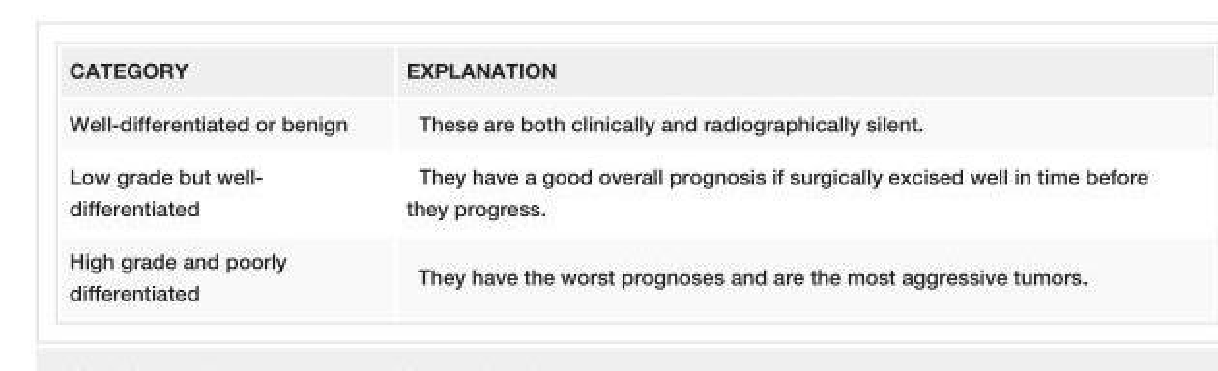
<table><tbody><tr><td>CATEGORY</td><td>EXPLANATION</td></tr><tr><td>Well-differentiated or benign</td><td>These are both clinically and radiographically silent.</td></tr><tr><td>Low grade but well- differentiated</td><td>They have a good overall prognosis if surgically excised well in time before they progress.</td></tr><tr><td>High grade and poorly differentiated</td><td>They have the worst prognoses and are the most aggressive tumors.</td></tr></tbody></table>